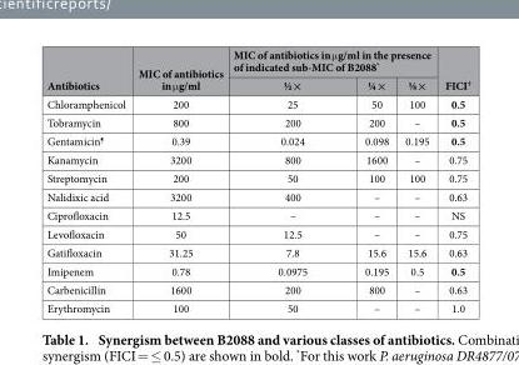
<table><thead><tr><td rowspan="2">Antibiotics</td><td rowspan="2">MIC of antibiotics in μ g/ml</td><td colspan="3">MIC of antibiotics in μ g/ml in the presence of indicated sub-MIC of B2088*</td><td rowspan="2">FICI†</td></tr><tr><td>½×</td><td>¼×</td><td>⅛×</td></tr></thead><tbody><tr><td>Chloramphenicol</td><td>200</td><td>25</td><td>50</td><td>100</td><td>0.5</td></tr><tr><td>Tobramycin</td><td>800</td><td>200</td><td>200</td><td>–</td><td>0.5</td></tr><tr><td>Gentamicin¶</td><td>0.39</td><td>0.024</td><td>0.098</td><td>0.195</td><td>0.5</td></tr><tr><td>Kanamycin</td><td>3200</td><td>800</td><td>1600</td><td>–</td><td>0.75</td></tr><tr><td>Streptomycin</td><td>200</td><td>50</td><td>100</td><td>100</td><td>0.75</td></tr><tr><td>Nalidixic acid</td><td>3200</td><td>400</td><td>–</td><td>–</td><td>0.63</td></tr><tr><td>Ciprofloxacin</td><td>12.5</td><td>–</td><td>–</td><td>–</td><td>NS</td></tr><tr><td>Levofloxacin</td><td>50</td><td>12.5</td><td>–</td><td>–</td><td>0.75</td></tr><tr><td>Gatifloxacin</td><td>31.25</td><td>7.8</td><td>15.6</td><td>15.6</td><td>0.63</td></tr><tr><td>Imipenem</td><td>0.78</td><td>0.0975</td><td>0.195</td><td>0.5</td><td>0.5</td></tr><tr><td>Carbenicillin</td><td>1600</td><td>200</td><td>800</td><td>–</td><td>0.63</td></tr><tr><td>Erythromycin</td><td>100</td><td>50</td><td>–</td><td>–</td><td>1.0</td></tr></tbody></table>